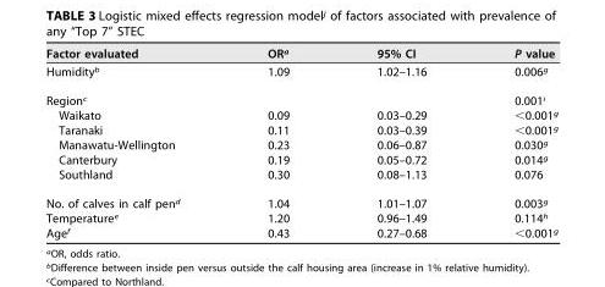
<table><thead><tr><td>Factor evaluated</td><td>OR<sup>a</sup></td><td>95% CI</td><td>P value</td></tr></thead><tbody><tr><td>Humidity<sup>b</sup></td><td>1.09</td><td>1.02–1.16</td><td>0.006<sup>g</sup></td></tr><tr><td>Region<sup>c</sup></td><td></td><td></td><td>0.001<sup>i</sup></td></tr><tr><td>Waikato</td><td>0.09</td><td>0.03–0.29</td><td>&lt;0.001<sup>g</sup></td></tr><tr><td>Taranaki</td><td>0.11</td><td>0.03–0.39</td><td>&lt;0.001<sup>g</sup></td></tr><tr><td>Manawatu-Wellington</td><td>0.23</td><td>0.06–0.87</td><td>0.030<sup>g</sup></td></tr><tr><td>Canterbury</td><td>0.19</td><td>0.05–0.72</td><td>0.014<sup>g</sup></td></tr><tr><td>Southland</td><td>0.30</td><td>0.08–1.13</td><td>0.076</td></tr><tr><td>No. of calves in calf pen<sup>d</sup></td><td>1.04</td><td>1.01–1.07</td><td>0.003<sup>g</sup></td></tr><tr><td>Temperature<sup>e</sup></td><td>1.20</td><td>0.96–1.49</td><td>0.114<sup>h</sup></td></tr><tr><td>Age<sup>f</sup></td><td>0.43</td><td>0.27–0.68</td><td>&lt;0.001<sup>g</sup></td></tr></tbody></table>